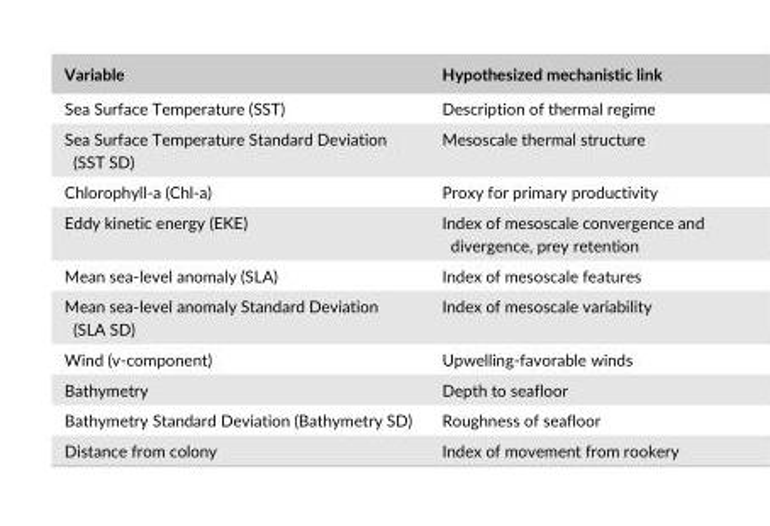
<table><thead><tr><td>Variable</td><td>Hypothesized mechanistic link</td></tr></thead><tbody><tr><td>Sea Surface Temperature (SST)</td><td>Description of thermal regime</td></tr><tr><td>Sea Surface Temperature Standard Deviation (SST SD)</td><td>Mesoscale thermal structure</td></tr><tr><td>Chlorophyll- a (Chl- a)</td><td>Proxy for primary productivity</td></tr><tr><td>Eddy kinetic energy (EKE)</td><td>Index of mesoscale convergence and divergence, prey retention</td></tr><tr><td>Mean sea- level anomaly (SLA)</td><td>Index of mesoscale features</td></tr><tr><td>Mean sea- level anomaly Standard Deviation (SLA SD)</td><td>Index of mesoscale variability</td></tr><tr><td>Wind (v- component)</td><td>Upwelling- favorable winds</td></tr><tr><td>Bathymetry</td><td>Depth to seafloor</td></tr><tr><td>Bathymetry Standard Deviation (Bathymetry SD)</td><td>Roughness of seafloor</td></tr><tr><td>Distance from colony</td><td>Index of movement from rookery</td></tr></tbody></table>